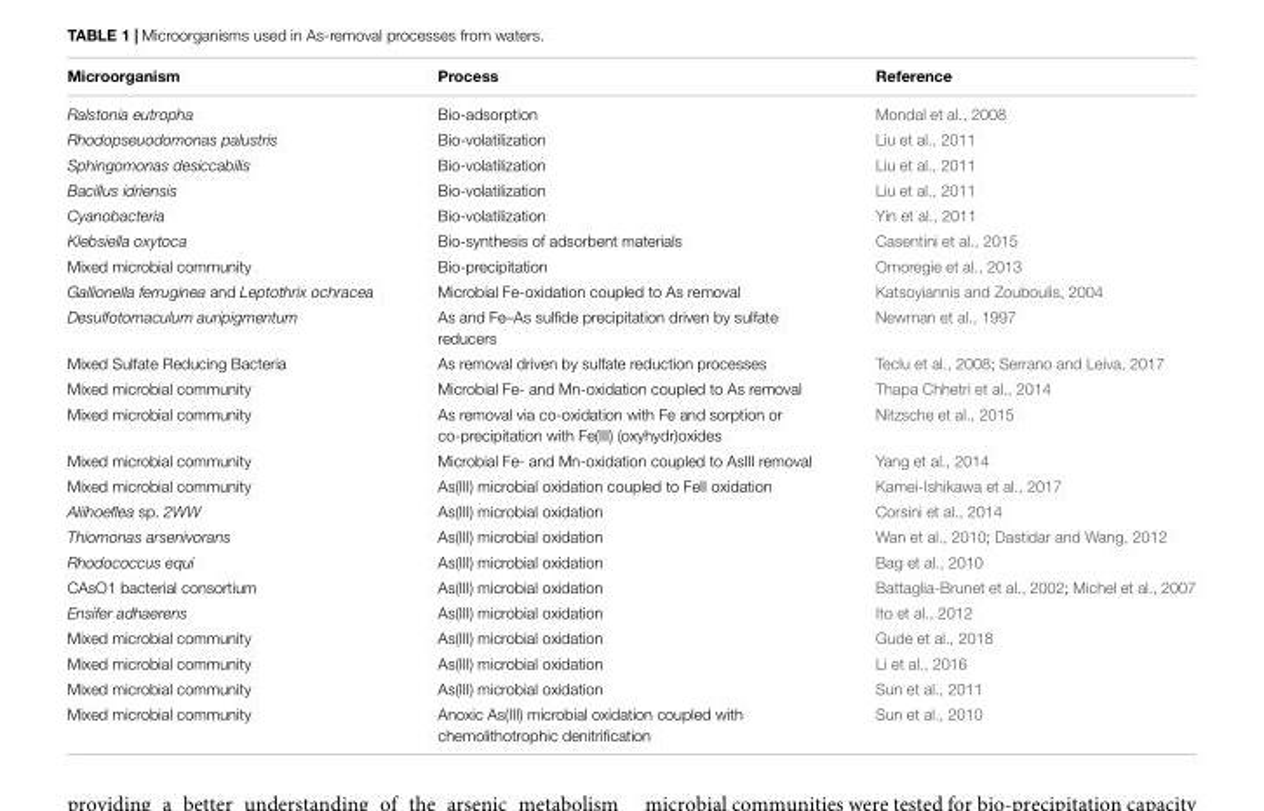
<table><thead><tr><td>Microorganism</td><td>Process</td><td>Reference</td></tr></thead><tbody><tr><td>Ralstonia eutropha</td><td>Bio-adsorption</td><td>Mondal et al., 2008</td></tr><tr><td>Rhodopseuodomonas palustris</td><td>Bio-volatilization</td><td>Liu et al., 2011</td></tr><tr><td>Sphingomonas desiccabilis</td><td>Bio-volatilization</td><td>Liu et al., 2011</td></tr><tr><td>Bacillus idriensis</td><td>Bio-volatilization</td><td>Liu et al., 2011</td></tr><tr><td>Cyanobacteria</td><td>Bio-volatilization</td><td>Yin et al., 2011</td></tr><tr><td>Klebsiella oxytoca</td><td>Bio-synthesis of adsorbent materials</td><td>Casentini et al., 2015</td></tr><tr><td>Mixed microbial community</td><td>Bio-precipitation</td><td>Omoregie et al., 2013</td></tr><tr><td>Gallionella ferruginea and Leptothrix ochracea</td><td>Microbial Fe-oxidation coupled to As removal</td><td>Katsoyiannis and Zouboulis, 2004</td></tr><tr><td>Desulfotomaculum auripigmentum</td><td>As and Fe–As sulfide precipitation driven by sulfate reducers</td><td>Newman et al., 1997</td></tr><tr><td>Mixed Sulfate Reducing Bacteria</td><td>As removal driven by sulfate reduction processes</td><td>Teclu et al., 2008; Serrano and Leiva, 2017</td></tr><tr><td>Mixed microbial community</td><td>Microbial Fe- and Mn-oxidation coupled to As removal</td><td>Thapa Chhetri et al., 2014</td></tr><tr><td>Mixed microbial community</td><td>As removal via co-oxidation with Fe and sorption or co-precipitation with Fe(III) (oxyhydr)oxides</td><td>Nitzsche et al., 2015</td></tr><tr><td>Mixed microbial community</td><td>Microbial Fe- and Mn-oxidation coupled to AsIII removal</td><td>Yang et al., 2014</td></tr><tr><td>Mixed microbial community</td><td>As(III) microbial oxidation coupled to FeII oxidation</td><td>Kamei-Ishikawa et al., 2017</td></tr><tr><td>Aliihoeflea sp. 2WW</td><td>As(III) microbial oxidation</td><td>Corsini et al., 2014</td></tr><tr><td>Thiomonas arsenivorans</td><td>As(III) microbial oxidation</td><td>Wan et al., 2010; Dastidar and Wang, 2012</td></tr><tr><td>Rhodococcus equi</td><td>As(III) microbial oxidation</td><td>Bag et al., 2010</td></tr><tr><td>CAsO1 bacterial consortium</td><td>As(III) microbial oxidation</td><td>Battaglia-Brunet et al., 2002; Michel et al., 2007</td></tr><tr><td>Ensifer adhaerens</td><td>As(III) microbial oxidation</td><td>Ito et al., 2012</td></tr><tr><td>Mixed microbial community</td><td>As(III) microbial oxidation</td><td>Gude et al., 2018</td></tr><tr><td>Mixed microbial community</td><td>As(III) microbial oxidation</td><td>Li et al., 2016</td></tr><tr><td>Mixed microbial community</td><td>As(III) microbial oxidation</td><td>Sun et al., 2011</td></tr><tr><td>Mixed microbial community</td><td>Anoxic As(III) microbial oxidation coupled with chemolithotrophic denitrification</td><td>Sun et al., 2010</td></tr></tbody></table>